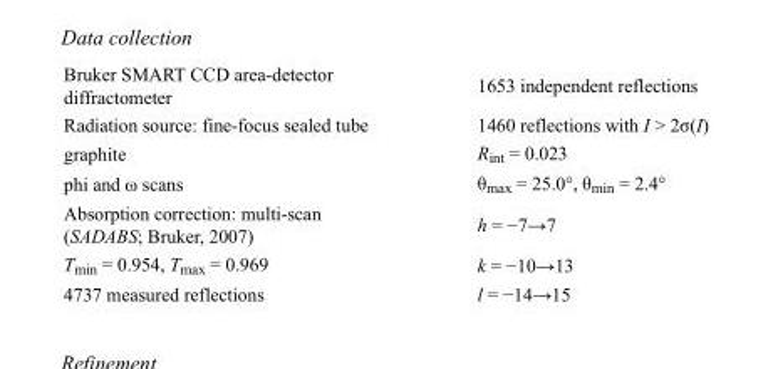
<table><tbody><tr><td>Bruker SMART CCD area-detector diffractometer</td><td>1653 independent reflections</td></tr><tr><td>Radiation source: fine-focus sealed tube</td><td>1460 reflections with I &gt; 2σ(I)</td></tr><tr><td>graphite</td><td>R<sub>int</sub> = 0.023</td></tr><tr><td>phi and ω scans</td><td>θ<sub>max</sub> = 25.0°, θ<sub>min</sub> = 2.4°</td></tr><tr><td>Absorption correction: multi-scan (SADABS; Bruker, 2007)</td><td>h = −7→7</td></tr><tr><td>T<sub>min</sub> = 0.954, T<sub>max</sub> = 0.969</td><td>k = −10→13</td></tr><tr><td>4737 measured reflections</td><td>l = −14→15</td></tr></tbody></table>